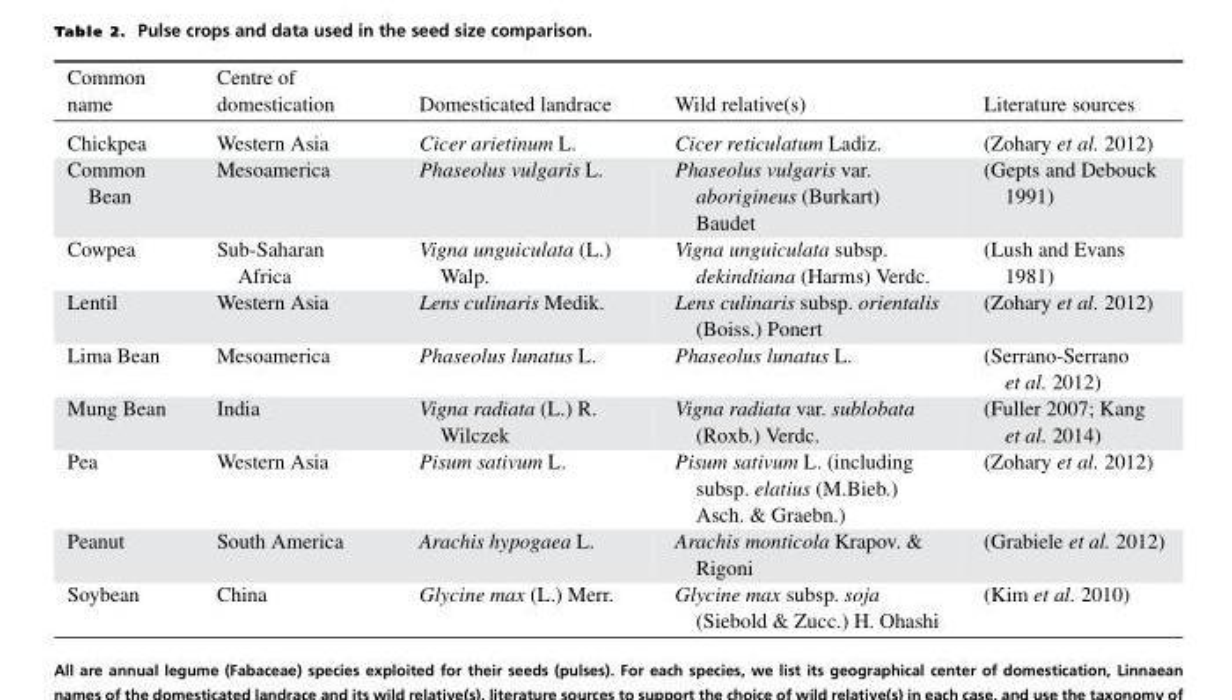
<table><thead><tr><td>Common name</td><td>Centre of domestication</td><td>Domesticated landrace</td><td>Wild relative(s)</td><td>Literature sources</td></tr></thead><tbody><tr><td>Chickpea</td><td>Western Asia</td><td>Cicer arietinum L.</td><td>Cicer reticulatum Ladiz.</td><td>(Zohary et al. 2012)</td></tr><tr><td>Common Bean</td><td>Mesoamerica</td><td>Phaseolus vulgaris L.</td><td>Phaseolus vulgaris var. aborigineus (Burkart) Baudet</td><td>(Gepts and Debouck 1991)</td></tr><tr><td>Cowpea</td><td>Sub-Saharan Africa</td><td>Vigna unguiculata (L.) Walp.</td><td>Vigna unguiculata subsp. dekindtiana (Harms) Verdc.</td><td>(Lush and Evans 1981)</td></tr><tr><td>Lentil</td><td>Western Asia</td><td>Lens culinaris Medik.</td><td>Lens culinaris subsp. orientalis (Boiss.) Ponert</td><td>(Zohary et al. 2012)</td></tr><tr><td>Lima Bean</td><td>Mesoamerica</td><td>Phaseolus lunatus L.</td><td>Phaseolus lunatus L.</td><td>(Serrano-Serrano et al. 2012)</td></tr><tr><td>Mung Bean</td><td>India</td><td>Vigna radiata (L.) R. Wilczek</td><td>Vigna radiata var. sublobata (Roxb.) Verdc.</td><td>(Fuller 2007; Kang et al. 2014)</td></tr><tr><td>Pea</td><td>Western Asia</td><td>Pisum sativum L.</td><td>Pisum sativum L. (including subsp. elatius (M.Bieb.) Asch. &amp; Graebn.)</td><td>(Zohary et al. 2012)</td></tr><tr><td>Peanut</td><td>South America</td><td>Arachis hypogaea L.</td><td>Arachis monticola Krapov. &amp; Rigoni</td><td>(Grabiele et al. 2012)</td></tr><tr><td>Soybean</td><td>China</td><td>Glycine max (L.) Merr.</td><td>Glycine max subsp. soja (Siebold &amp; Zucc.) H. Ohashi</td><td>(Kim et al. 2010)</td></tr></tbody></table>